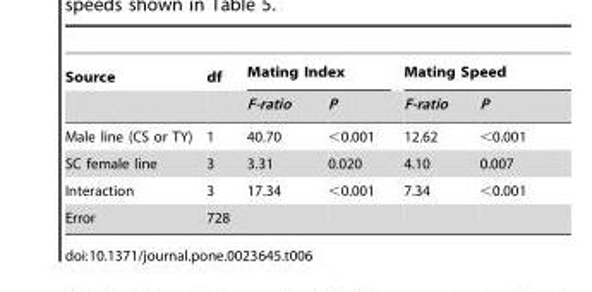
<table><thead><tr><td rowspan="2">Source</td><td rowspan="2">df</td><td colspan="2">Mating Index</td><td colspan="2">Mating Speed</td></tr><tr><td>F-ratio</td><td>P</td><td>F-ratio</td><td>P</td></tr></thead><tbody><tr><td>Male line (CS or TY)</td><td>1</td><td>40.70</td><td>&lt;0.001</td><td>12.62</td><td>&lt;0.001</td></tr><tr><td>SC female line</td><td>3</td><td>3.31</td><td>0.020</td><td>4.10</td><td>0.007</td></tr><tr><td>Interaction</td><td>3</td><td>17.34</td><td>&lt;0.001</td><td>7.34</td><td>&lt;0.001</td></tr><tr><td>Error</td><td>728</td><td></td><td></td><td></td><td></td></tr></tbody></table>